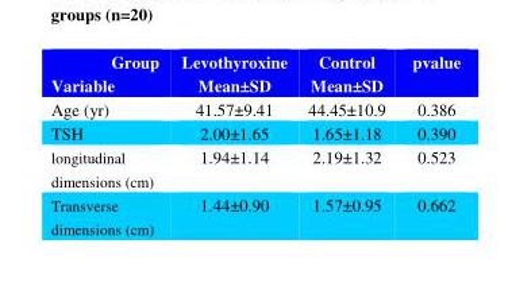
<table><thead><tr><td>pvalue</td><td>Control Mean±SD</td><td>Levothyroxine Mean±SD</td><td>Group Variable</td></tr></thead><tbody><tr><td>0.386</td><td>44.45±10.9</td><td>41.57±9.41</td><td>Age (yr)</td></tr><tr><td>0.390</td><td>1.65±1.18</td><td>2.00±1.65</td><td>TSH</td></tr><tr><td>0.523</td><td>2.19±1.32</td><td>1.94±1.14</td><td>longitudinal dimensions (cm)</td></tr><tr><td>0.662</td><td>1.57±0.95</td><td>1.44±0.90</td><td>Transverse dimensions (cm)</td></tr></tbody></table>